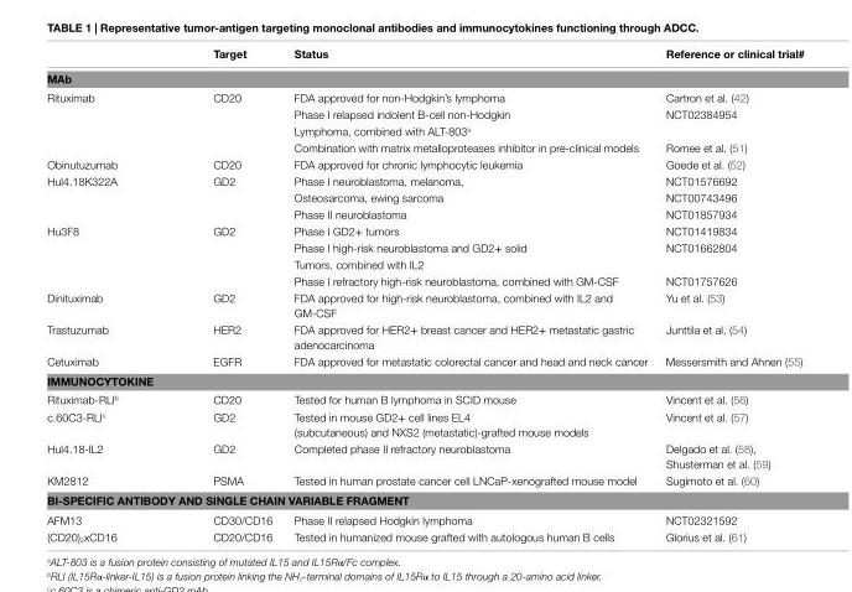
<table><thead><tr><td></td><td>Target</td><td>Status</td><td>Reference or clinical trial#</td></tr></thead><tbody><tr><td colspan="4">MAb</td></tr><tr><td rowspan="4">Rituximab</td><td>CD20</td><td>FDA approved for non-Hodgkin’s lymphoma</td><td>Cartron et al. (42)</td></tr><tr><td></td><td>Phase I relapsed indolent B-cell non-Hodgkin</td><td>NCT02384954</td></tr><tr><td></td><td>Lymphoma, combined with ALT-803<sup>a</sup></td><td></td></tr><tr><td></td><td>Combination with matrix metalloproteases inhibitor in pre-clinical models</td><td>Romee et al. (51)</td></tr><tr><td>Obinutuzumab</td><td>CD20</td><td>FDA approved for chronic lymphocytic leukemia</td><td>Goede et al. (52)</td></tr><tr><td rowspan="3">Hul4.18K322A</td><td>GD2</td><td>Phase I neuroblastoma, melanoma,</td><td>NCT01576692</td></tr><tr><td></td><td>Osteosarcoma, ewing sarcoma</td><td>NCT00743496</td></tr><tr><td></td><td>Phase II neuroblastoma</td><td>NCT01857934</td></tr><tr><td rowspan="4">Hu3F8</td><td>GD2</td><td>Phase I GD2+ tumors</td><td>NCT01419834</td></tr><tr><td></td><td>Phase I high-risk neuroblastoma and GD2+ solid</td><td>NCT01662804</td></tr><tr><td></td><td>Tumors, combined with IL2</td><td></td></tr><tr><td></td><td>Phase I refractory high-risk neuroblastoma, combined with GM-CSF</td><td>NCT01757626</td></tr><tr><td>Dinituximab</td><td>GD2</td><td>FDA approved for high-risk neuroblastoma, combined with IL2 and GM-CSF</td><td>Yu et al. (53)</td></tr><tr><td>Trastuzumab</td><td>HER2</td><td>FDA approved for HER2+ breast cancer and HER2+ metastatic gastric adenocarcinoma</td><td>Junttila et al. (54)</td></tr><tr><td>Cetuximab</td><td>EGFR</td><td>FDA approved for metastatic colorectal cancer and head and neck cancer</td><td>Messersmith and Ahnen (55)</td></tr><tr><td colspan="4">iMMUNOCYTOKiNe</td></tr><tr><td>Rituximab-RLI<sup>b</sup></td><td>CD20</td><td>Tested for human B lymphoma in SCID mouse</td><td>Vincent et al. (56)</td></tr><tr><td>c.60C3-RLI<sup>c</sup></td><td>GD2</td><td>Tested in mouse GD2+ cell lines EL4 (subcutaneous) and NXS2 (metastatic)-grafted mouse models</td><td>Vincent et al. (57)</td></tr><tr><td>Hul4.18-IL2</td><td>GD2</td><td>Completed phase II refractory neuroblastoma</td><td>Delgado et al. (58), Shusterman et al. (59)</td></tr><tr><td>KM2812</td><td>PSMA</td><td>Tested in human prostate cancer cell LNCaP-xenografted mouse model</td><td>Sugimoto et al. (60)</td></tr><tr><td colspan="4">Bi-SPeCiFiC ANTiBODY AND SiNGLe CHAiN vARiABLe FRAGMeNT</td></tr><tr><td>AFM13</td><td>CD30/CD16</td><td>Phase II relapsed Hodgkin lymphoma</td><td>NCT02321592</td></tr><tr><td>(CD20)<sub>2</sub>xCD16</td><td>CD20/CD16</td><td>Tested in humanized mouse grafted with autologous human B cells</td><td>Glorius et al. (61)</td></tr></tbody></table>